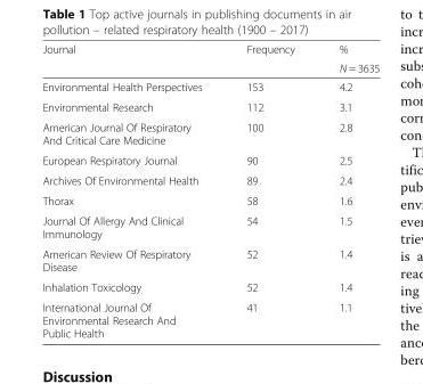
<table><thead><tr><td rowspan="2">Journal</td><td rowspan="2">Frequency</td><td rowspan="2">% N = 3635</td></tr><tr></tr></thead><tbody><tr><td>Environmental Health Perspectives</td><td>153</td><td>4.2</td></tr><tr><td>Environmental Research</td><td>112</td><td>3.1</td></tr><tr><td>American Journal Of Respiratory And Critical Care Medicine</td><td>100</td><td>2.8</td></tr><tr><td>European Respiratory Journal</td><td>90</td><td>2.5</td></tr><tr><td>Archives Of Environmental Health</td><td>89</td><td>2.4</td></tr><tr><td>Thorax</td><td>58</td><td>1.6</td></tr><tr><td>Journal Of Allergy And Clinical Immunology</td><td>54</td><td>1.5</td></tr><tr><td>American Review Of Respiratory Disease</td><td>52</td><td>1.4</td></tr><tr><td>Inhalation Toxicology</td><td>52</td><td>1.4</td></tr><tr><td>International Journal Of Environmental Research And Public Health</td><td>41</td><td>1.1</td></tr></tbody></table>